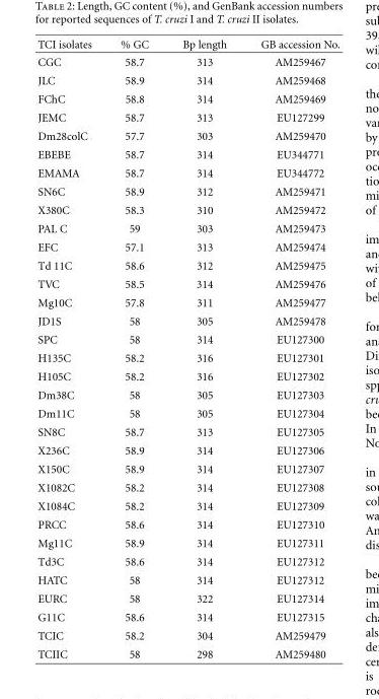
<table><thead><tr><td>TCI isolates</td><td>% GC</td><td>Bp length</td><td>GB accession No.</td></tr></thead><tbody><tr><td>CGC</td><td>58.7</td><td>313</td><td>AM259467</td></tr><tr><td>JLC</td><td>58.9</td><td>314</td><td>AM259468</td></tr><tr><td>FChC</td><td>58.8</td><td>314</td><td>AM259469</td></tr><tr><td>JEMC</td><td>58.7</td><td>313</td><td>EU127299</td></tr><tr><td>Dm28colC</td><td>57.7</td><td>303</td><td>AM259470</td></tr><tr><td>EBEBE</td><td>58.7</td><td>314</td><td>EU344771</td></tr><tr><td>EMAMA</td><td>58.7</td><td>314</td><td>EU344772</td></tr><tr><td>SN6C</td><td>58.9</td><td>312</td><td>AM259471</td></tr><tr><td>X380C</td><td>58.3</td><td>310</td><td>AM259472</td></tr><tr><td>PAL C</td><td>59</td><td>303</td><td>AM259473</td></tr><tr><td>EFC</td><td>57.1</td><td>313</td><td>AM259474</td></tr><tr><td>Td 11C</td><td>58.6</td><td>312</td><td>AM259475</td></tr><tr><td>TVC</td><td>58.5</td><td>314</td><td>AM259476</td></tr><tr><td>Mg10C</td><td>57.8</td><td>311</td><td>AM259477</td></tr><tr><td>JD1S</td><td>58</td><td>305</td><td>AM259478</td></tr><tr><td>SPC</td><td>58</td><td>314</td><td>EU127300</td></tr><tr><td>H135C</td><td>58.2</td><td>316</td><td>EU127301</td></tr><tr><td>H105C</td><td>58.2</td><td>316</td><td>EU127302</td></tr><tr><td>Dm38C</td><td>58</td><td>305</td><td>EU127303</td></tr><tr><td>Dm11C</td><td>58</td><td>305</td><td>EU127304</td></tr><tr><td>SN8C</td><td>58.7</td><td>313</td><td>EU127305</td></tr><tr><td>X236C</td><td>58.9</td><td>314</td><td>EU127306</td></tr><tr><td>X150C</td><td>58.9</td><td>314</td><td>EU127307</td></tr><tr><td>X1082C</td><td>58.2</td><td>314</td><td>EU127308</td></tr><tr><td>X1084C</td><td>58.2</td><td>314</td><td>EU127309</td></tr><tr><td>PRCC</td><td>58.6</td><td>314</td><td>EU127310</td></tr><tr><td>Mg11C</td><td>58.9</td><td>314</td><td>EU127311</td></tr><tr><td>Td3C</td><td>58.6</td><td>314</td><td>EU127312</td></tr><tr><td>HATC</td><td>58</td><td>314</td><td>EU127312</td></tr><tr><td>EURC</td><td>58</td><td>322</td><td>EU127314</td></tr><tr><td>G11C</td><td>58.6</td><td>314</td><td>EU127315</td></tr><tr><td>TCIC</td><td>58.2</td><td>304</td><td>AM259479</td></tr><tr><td>TCIIC</td><td>58</td><td>298</td><td>AM259480</td></tr></tbody></table>